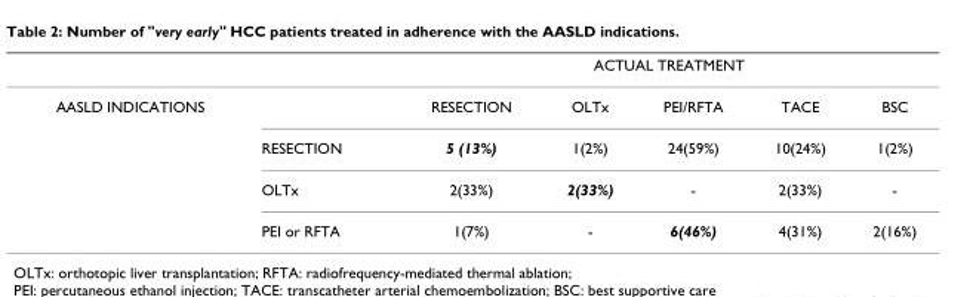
<table><thead><tr><td rowspan="2">AASLD INDICATIONS</td><td rowspan="2"></td><td colspan="5">ACTUAL TREATMENT</td></tr><tr><td>RESECTION</td><td>OLTx</td><td>PEI/RFTA</td><td>TACE</td><td>BSC</td></tr></thead><tbody><tr><td></td><td>RESECTION</td><td>5 (13%)</td><td>1(2%)</td><td>24(59%)</td><td>10(24%)</td><td>1(2%)</td></tr><tr><td></td><td>OLTx</td><td>2(33%)</td><td>2(33%)</td><td>-</td><td>2(33%)</td><td>-</td></tr><tr><td></td><td>PEI or RFTA</td><td>1(7%)</td><td>-</td><td>6(46%)</td><td>4(31%)</td><td>2(16%)</td></tr></tbody></table>